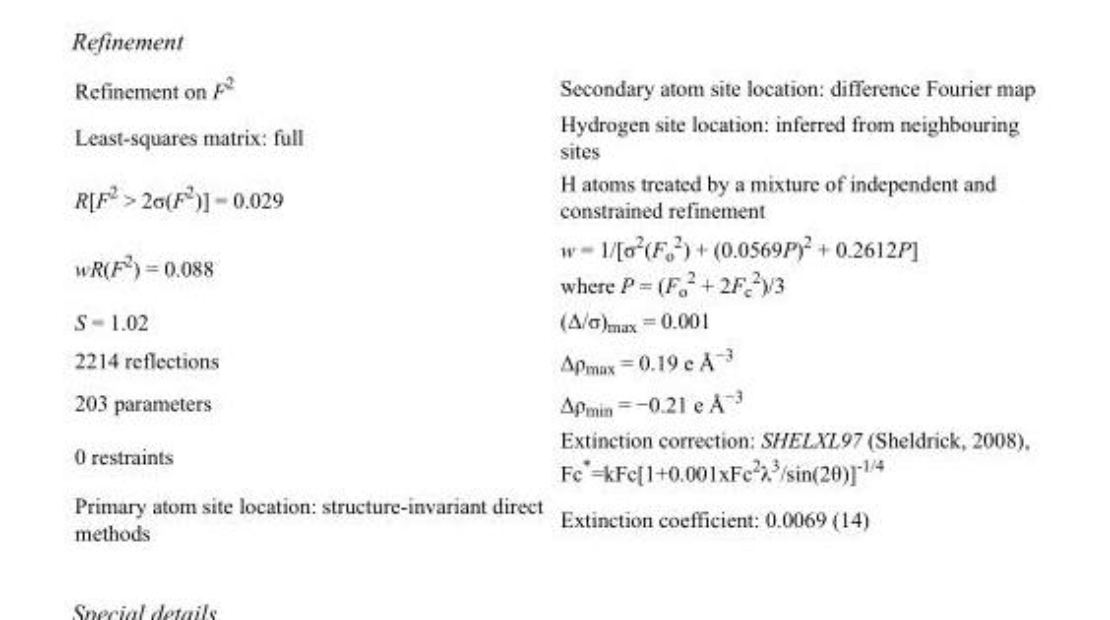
<table><tbody><tr><td>Refinement on F<sup>2</sup></td><td>Secondary atom site location: difference Fourier map</td></tr><tr><td>Least-squares matrix: full</td><td>Hydrogen site location: inferred from neighbouring sites</td></tr><tr><td>R[F<sup>2</sup> &gt; 2σ(F<sup>2</sup>)] = 0.029</td><td>H atoms treated by a mixture of independent and constrained refinement</td></tr><tr><td>wR(F<sup>2</sup>) = 0.088</td><td>w = 1/[σ<sup>2</sup>(F<sub>o</sub> <sup>2</sup>) + (0.0569P)<sup>2</sup> + 0.2612P] where P = (F<sub>o</sub> <sup>2</sup> + 2F<sub>c</sub> <sup>2</sup>)/3</td></tr><tr><td>S = 1.02</td><td>(Δ/σ)<sub>max</sub> = 0.001</td></tr><tr><td>2214 reflections</td><td>Δρ<sub>max</sub> = 0.19 e Å<sup>−3</sup></td></tr><tr><td>203 parameters</td><td>Δρ<sub>min</sub> = −0.21 e Å<sup>−3</sup></td></tr><tr><td>0 restraints</td><td>Extinction correction: SHELXL97 (Sheldrick, 2008), Fc*=kFc[1+0.001xFc<sup>2</sup>λ<sup>3</sup>/sin(2θ)]<sup>-1/4</sup></td></tr><tr><td>Primary atom site location: structure-invariant direct methods</td><td>Extinction coefficient: 0.0069 (14)</td></tr></tbody></table>